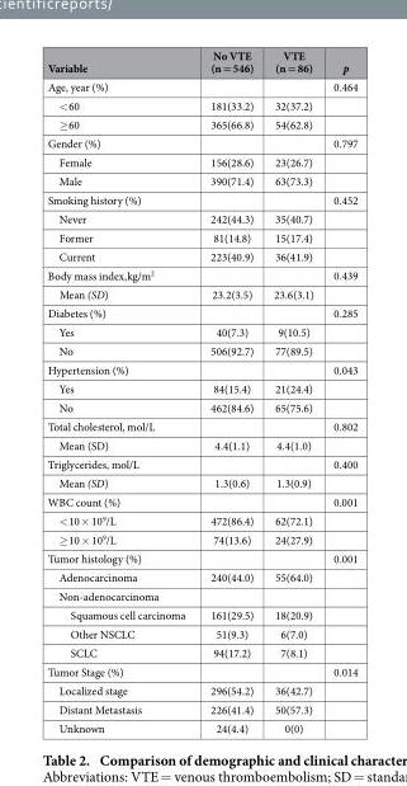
<table><thead><tr><td>Variable</td><td>No VTE (n = 546)</td><td>VTE (n = 86)</td><td>p</td></tr></thead><tbody><tr><td>Age, year (%)</td><td></td><td></td><td>0.464</td></tr><tr><td>&lt; 60</td><td>181(33.2)</td><td>32(37.2)</td><td></td></tr><tr><td>≥ 60</td><td>365(66.8)</td><td>54(62.8)</td><td></td></tr><tr><td>Gender (%)</td><td></td><td></td><td>0.797</td></tr><tr><td>Female</td><td>156(28.6)</td><td>23(26.7)</td><td></td></tr><tr><td>Male</td><td>390(71.4)</td><td>63(73.3)</td><td></td></tr><tr><td>Smoking history (%)</td><td></td><td></td><td>0.452</td></tr><tr><td>Never</td><td>242(44.3)</td><td>35(40.7)</td><td></td></tr><tr><td>Former</td><td>81(14.8)</td><td>15(17.4)</td><td></td></tr><tr><td>Current</td><td>223(40.9)</td><td>36(41.9)</td><td></td></tr><tr><td>Body mass index,kg/m<sup>2</sup></td><td></td><td></td><td>0.439</td></tr><tr><td>Mean (SD)</td><td>23.2(3.5)</td><td>23.6(3.1)</td><td></td></tr><tr><td>Diabetes (%)</td><td></td><td></td><td>0.285</td></tr><tr><td>Yes</td><td>40(7.3)</td><td>9(10.5)</td><td></td></tr><tr><td>No</td><td>506(92.7)</td><td>77(89.5)</td><td></td></tr><tr><td>Hypertension (%)</td><td></td><td></td><td>0.043</td></tr><tr><td>Yes</td><td>84(15.4)</td><td>21(24.4)</td><td></td></tr><tr><td>No</td><td>462(84.6)</td><td>65(75.6)</td><td></td></tr><tr><td>Total cholesterol, mol/L</td><td></td><td></td><td>0.802</td></tr><tr><td>Mean (SD)</td><td>4.4(1.1)</td><td>4.4(1.0)</td><td></td></tr><tr><td>Triglycerides, mol/L</td><td></td><td></td><td>0.400</td></tr><tr><td>Mean (SD)</td><td>1.3(0.6)</td><td>1.3(0.9)</td><td></td></tr><tr><td>WBC count (%)</td><td></td><td></td><td>0.001</td></tr><tr><td>&lt; 10 × 10<sup>9</sup>/L</td><td>472(86.4)</td><td>62(72.1)</td><td></td></tr><tr><td>≥ 10 × 10<sup>9</sup>/L</td><td>74(13.6)</td><td>24(27.9)</td><td></td></tr><tr><td>Tumor histology (%)</td><td></td><td></td><td>0.001</td></tr><tr><td>Adenocarcinoma</td><td>240(44.0)</td><td>55(64.0)</td><td></td></tr><tr><td colspan="4">Non-adenocarcinoma</td></tr><tr><td>Squamous cell carcinoma</td><td>161(29.5)</td><td>18(20.9)</td><td></td></tr><tr><td>Other NSCLC</td><td>51(9.3)</td><td>6(7.0)</td><td></td></tr><tr><td>SCLC</td><td>94(17.2)</td><td>7(8.1)</td><td></td></tr><tr><td>Tumor Stage (%)</td><td></td><td></td><td>0.014</td></tr><tr><td>Localized stage</td><td>296(54.2)</td><td>36(42.7)</td><td></td></tr><tr><td>Distant Metastasis</td><td>226(41.4)</td><td>50(57.3)</td><td></td></tr><tr><td>Unknown</td><td>24(4.4)</td><td>0(0)</td><td></td></tr></tbody></table>